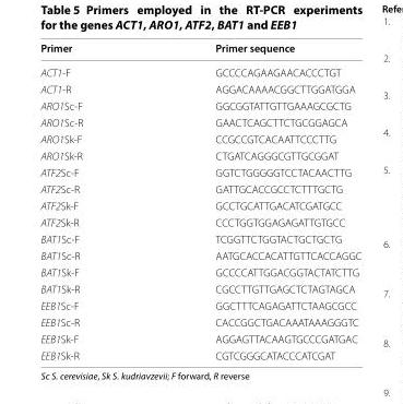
<table><thead><tr><td>Primer</td><td>Primer sequence</td></tr></thead><tbody><tr><td>ACT1-F</td><td>GCCCCAGAAGAACACCCTGT</td></tr><tr><td>ACT1-R</td><td>AGGACAAAACGGCTTGGATGGA</td></tr><tr><td>ARO1Sc-F</td><td>GGCGGTATTGTTGAAAGCGCTG</td></tr><tr><td>ARO1Sc-R</td><td>GAACTCAGCTTCTGCGGAGCA</td></tr><tr><td>ARO1Sk-F</td><td>CCGCCGTCACAATTCCCTTG</td></tr><tr><td>ARO1Sk-R</td><td>CTGATCAGGGCGTTGCGGAT</td></tr><tr><td>ATF2Sc-F</td><td>GGTCTGGGGGTCCTACAACTTG</td></tr><tr><td>ATF2Sc-R</td><td>GATTGCACCGCCTCTTTGCTG</td></tr><tr><td>ATF2Sk-F</td><td>GCCTGCATTGACATCGATGCC</td></tr><tr><td>ATF2Sk-R</td><td>CCCTGGTGGAGAGATTGTGCC</td></tr><tr><td>BAT1Sc-F</td><td>TCGGTTCTGGTACTGCTGCTG</td></tr><tr><td>BAT1Sc-R</td><td>AATGCACCACATTGTTCACCAGGC</td></tr><tr><td>BAT1Sk-F</td><td>GCCCCATTGGACGGTACTATCTTG</td></tr><tr><td>BAT1Sk-R</td><td>CGCCTTGTTGAGCTCTAGTAGCA</td></tr><tr><td>EEB1Sc-F</td><td>GGCTTTCAGAGATTCTAAGCGCC</td></tr><tr><td>EEB1Sc-R</td><td>CACCGGCTGACAAATAAAGGGTC</td></tr><tr><td>EEB1Sk-F</td><td>AGGAGTTACAAGTGCCCGATGAC</td></tr><tr><td>EEB1Sk-R</td><td>CGTCGGGCATACCCATCGAT</td></tr></tbody></table>